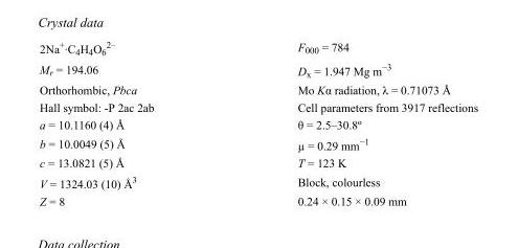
<table><tbody><tr><td>2Na<sup>+</sup>·C<sub>4</sub>H<sub>4</sub>O<sub>6</sub> <sup>2–</sup></td><td>F000 = 784</td></tr><tr><td>M<sub>r</sub> = 194.06</td><td>D<sub>x</sub> = 1.947 Mg m<sup>−3</sup></td></tr><tr><td>Orthorhombic, Pbca</td><td>Mo Kα radiation, λ = 0.71073 Å</td></tr><tr><td>Hall symbol: -P 2ac 2ab</td><td>Cell parameters from 3917 reflections</td></tr><tr><td>a = 10.1160 (4) Å</td><td>θ = 2.5–30.8º</td></tr><tr><td>b = 10.0049 (5) Å</td><td>µ = 0.29 mm<sup>−1</sup></td></tr><tr><td>c = 13.0821 (5) Å</td><td>T = 123 K</td></tr><tr><td>V = 1324.03 (10) Å<sup>3</sup></td><td>Block, colourless</td></tr><tr><td>Z = 8</td><td>0.24 × 0.15 × 0.09 mm</td></tr></tbody></table>